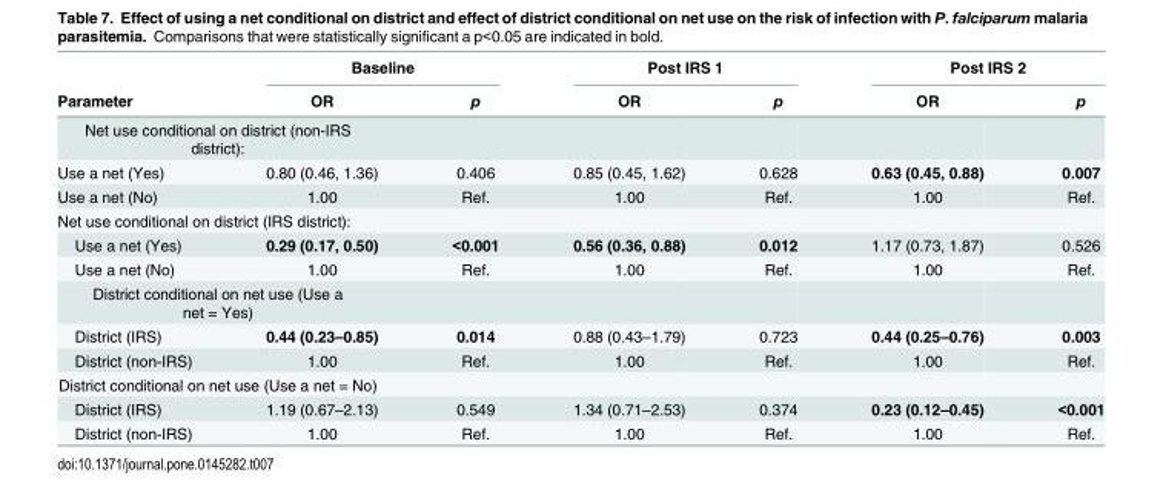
<table><thead><tr><td rowspan="2">Parameter</td><td colspan="2">Baseline</td><td colspan="2">Post IRS 1</td><td colspan="2">Post IRS 2</td></tr><tr><td>OR</td><td>p</td><td>OR</td><td>p</td><td>OR</td><td>p</td></tr></thead><tbody><tr><td colspan="7">Net use conditional on district (non-IRS district):</td></tr><tr><td>Use a net (Yes)</td><td>0.80 (0.46, 1.36)</td><td>0.406</td><td>0.85 (0.45, 1.62)</td><td>0.628</td><td>0.63 (0.45, 0.88)</td><td>0.007</td></tr><tr><td>Use a net (No)</td><td>1.00</td><td>Ref.</td><td>1.00</td><td>Ref.</td><td>1.00</td><td>Ref.</td></tr><tr><td colspan="7">Net use conditional on district (IRS district):</td></tr><tr><td>Use a net (Yes)</td><td>0.29 (0.17, 0.50)</td><td>&lt;0.001</td><td>0.56 (0.36, 0.88)</td><td>0.012</td><td>1.17 (0.73, 1.87)</td><td>0.526</td></tr><tr><td>Use a net (No)</td><td>1.00</td><td>Ref.</td><td>1.00</td><td>Ref.</td><td>1.00</td><td>Ref.</td></tr><tr><td colspan="7">District conditional on net use (Use a net = Yes)</td></tr><tr><td>District (IRS)</td><td>0.44 (0.23–0.85)</td><td>0.014</td><td>0.88 (0.43–1.79)</td><td>0.723</td><td>0.44 (0.25–0.76)</td><td>0.003</td></tr><tr><td>District (non-IRS)</td><td>1.00</td><td>Ref.</td><td>1.00</td><td>Ref.</td><td>1.00</td><td>Ref.</td></tr><tr><td colspan="7">District conditional on net use (Use a net = No)</td></tr><tr><td>District (IRS)</td><td>1.19 (0.67–2.13)</td><td>0.549</td><td>1.34 (0.71–2.53)</td><td>0.374</td><td>0.23 (0.12–0.45)</td><td>&lt;0.001</td></tr><tr><td>District (non-IRS)</td><td>1.00</td><td>Ref.</td><td>1.00</td><td>Ref.</td><td>1.00</td><td>Ref.</td></tr></tbody></table>